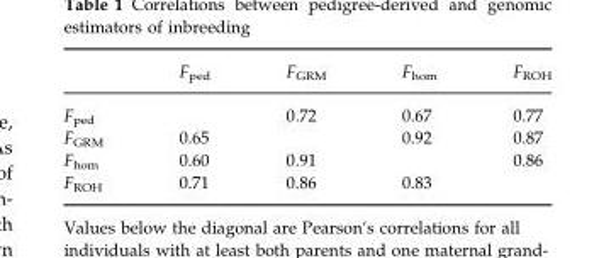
<table><thead><tr><td></td><td>F<sub>ped</sub></td><td>F<sub>GRM</sub></td><td>F<sub>hom</sub></td><td>F<sub>ROH</sub></td></tr></thead><tbody><tr><td>F<sub>ped</sub></td><td></td><td>0.72</td><td>0.67</td><td>0.77</td></tr><tr><td>F<sub>GRM</sub></td><td>0.65</td><td></td><td>0.92</td><td>0.87</td></tr><tr><td>F<sub>hom</sub></td><td>0.60</td><td>0.91</td><td></td><td>0.86</td></tr><tr><td>F<sub>ROH</sub></td><td>0.71</td><td>0.86</td><td>0.83</td><td></td></tr></tbody></table>